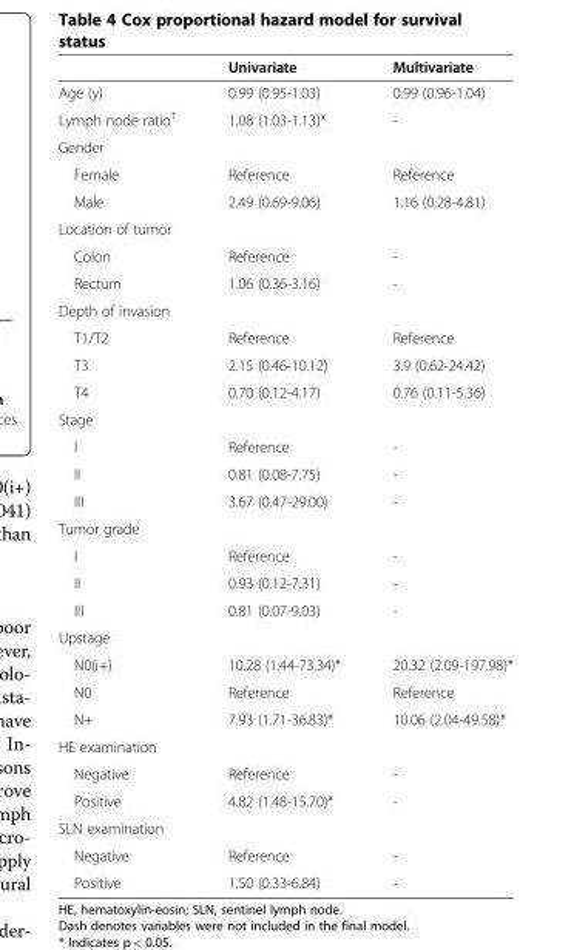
<table><thead><tr><td></td><td>Univariate</td><td>Multivariate</td></tr></thead><tbody><tr><td>Age (y)</td><td>0.99 (0.95-1.03)</td><td>0.99 (0.96-1.04)</td></tr><tr><td>Lymph node ratio<sup>†</sup></td><td>1.08 (1.03-1.13)*</td><td>-</td></tr><tr><td colspan="3">Gender</td></tr><tr><td>Female</td><td>Reference</td><td>Reference</td></tr><tr><td>Male</td><td>2.49 (0.69-9.06)</td><td>1.16 (0.28-4.81)</td></tr><tr><td colspan="3">Location of tumor</td></tr><tr><td>Colon</td><td>Reference</td><td>-</td></tr><tr><td>Rectum</td><td>1.06 (0.36-3.16)</td><td>-</td></tr><tr><td colspan="3">Depth of invasion</td></tr><tr><td>T1/T2</td><td>Reference</td><td>Reference</td></tr><tr><td>T3</td><td>2.15 (0.46-10.12)</td><td>3.9 (0.62-24.42)</td></tr><tr><td>T4</td><td>0.70 (0.12-4.17)</td><td>0.76 (0.11-5.36)</td></tr><tr><td colspan="3">Stage</td></tr><tr><td>I</td><td>Reference</td><td>-</td></tr><tr><td>II</td><td>0.81 (0.08-7.75)</td><td>-</td></tr><tr><td>III</td><td>3.67 (0.47-29.00)</td><td>-</td></tr><tr><td colspan="3">Tumor grade</td></tr><tr><td>I</td><td>Reference</td><td>-</td></tr><tr><td>II</td><td>0.93 (0.12-7.31)</td><td>-</td></tr><tr><td>III</td><td>0.81 (0.07-9.03)</td><td>-</td></tr><tr><td colspan="3">Upstage</td></tr><tr><td>N0(i+)</td><td>10.28 (1.44-73.34)*</td><td>20.32 (2.09-197.98)*</td></tr><tr><td>N0</td><td>Reference</td><td>Reference</td></tr><tr><td>N+</td><td>7.93 (1.71-36.83)*</td><td>10.06 (2.04-49.58)*</td></tr><tr><td colspan="3">HE examination</td></tr><tr><td>Negative</td><td>Reference</td><td>-</td></tr><tr><td>Positive</td><td>4.82 (1.48-15.70)*</td><td>-</td></tr><tr><td colspan="3">SLN examination</td></tr><tr><td>Negative</td><td>Reference</td><td>-</td></tr><tr><td>Positive</td><td>1.50 (0.33-6.84)</td><td>-</td></tr></tbody></table>